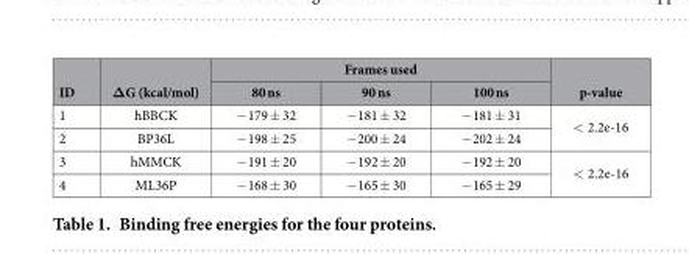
<table><thead><tr><td rowspan="2">ID</td><td rowspan="2">ΔG (kcal/mol)</td><td colspan="3">Frames used</td><td rowspan="2">p-value</td></tr><tr><td>80 ns</td><td>90 ns</td><td>100 ns</td></tr></thead><tbody><tr><td>1</td><td>hBBCK</td><td>− 179 ± 32</td><td>− 181 ± 32</td><td>− 181 ± 31</td><td rowspan="2">&lt; 2.2e-16</td></tr><tr><td>2</td><td>BP36L</td><td>− 198 ± 25</td><td>− 200 ± 24</td><td>− 202 ± 24</td></tr><tr><td>3</td><td>hMMCK</td><td>− 191 ± 20</td><td>− 192 ± 20</td><td>− 192 ± 20</td><td rowspan="2">&lt; 2.2e-16</td></tr><tr><td>4</td><td>ML36P</td><td>− 168 ± 30</td><td>− 165 ± 30</td><td>− 165 ± 29</td></tr></tbody></table>